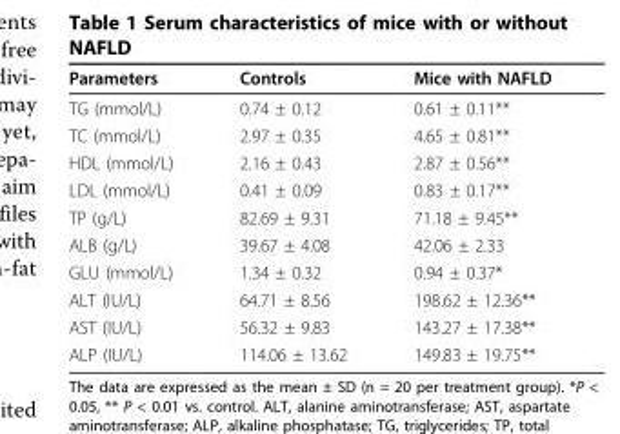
<table><thead><tr><td>Parameters</td><td>Controls</td><td>Mice with NAFLD</td></tr></thead><tbody><tr><td>TG (mmol/L)</td><td>0.74 ± 0.12</td><td>0.61 ± 0.11**</td></tr><tr><td>TC (mmol/L)</td><td>2.97 ± 0.35</td><td>4.65 ± 0.81**</td></tr><tr><td>HDL (mmol/L)</td><td>2.16 ± 0.43</td><td>2.87 ± 0.56**</td></tr><tr><td>LDL (mmol/L)</td><td>0.41 ± 0.09</td><td>0.83 ± 0.17**</td></tr><tr><td>TP (g/L)</td><td>82.69 ± 9.31</td><td>71.18 ± 9.45**</td></tr><tr><td>ALB (g/L)</td><td>39.67 ± 4.08</td><td>42.06 ± 2.33</td></tr><tr><td>GLU (mmol/L)</td><td>1.34 ± 0.32</td><td>0.94 ± 0.37*</td></tr><tr><td>ALT (IU/L)</td><td>64.71 ± 8.56</td><td>198.62 ± 12.36**</td></tr><tr><td>AST (IU/L)</td><td>56.32 ± 9.83</td><td>143.27 ± 17.38**</td></tr><tr><td>ALP (IU/L)</td><td>114.06 ± 13.62</td><td>149.83 ± 19.75**</td></tr></tbody></table>